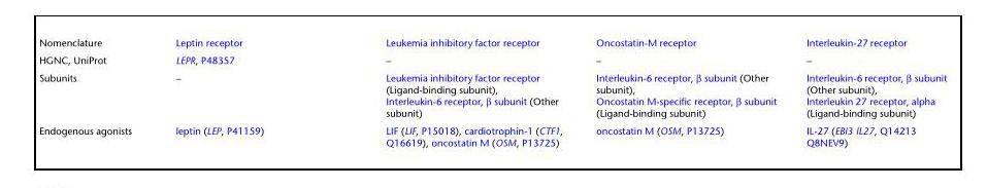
<table><tbody><tr><td>Nomenclature</td><td>Leptin receptor</td><td>Leukemia inhibitory factor receptor</td><td>Oncostatin-M receptor</td><td>Interleukin-27 receptor</td></tr><tr><td>HGNC, UniProt</td><td>LEPR, P48357</td><td>–</td><td>–</td><td>–</td></tr><tr><td>Subunits</td><td>–</td><td>Leukemia inhibitory factor receptor (Ligand-binding subunit), Interleukin-6 receptor, β subunit (Other subunit)</td><td>Interleukin-6 receptor, β subunit (Other subunit), Oncostatin M-specific receptor, β subunit (Ligand-binding subunit)</td><td>Interleukin-6 receptor, β subunit (Other subunit), Interleukin 27 receptor, alpha (Ligand-binding subunit)</td></tr><tr><td>Endogenous agonists</td><td>leptin (LEP, P41159)</td><td>LIF (LIF, P15018), cardiotrophin-1 (CTF1, Q16619), oncostatin M (OSM, P13725)</td><td>oncostatin M (OSM, P13725)</td><td>IL-27 (EBI3 IL27, Q14213 Q8NEV9)</td></tr></tbody></table>